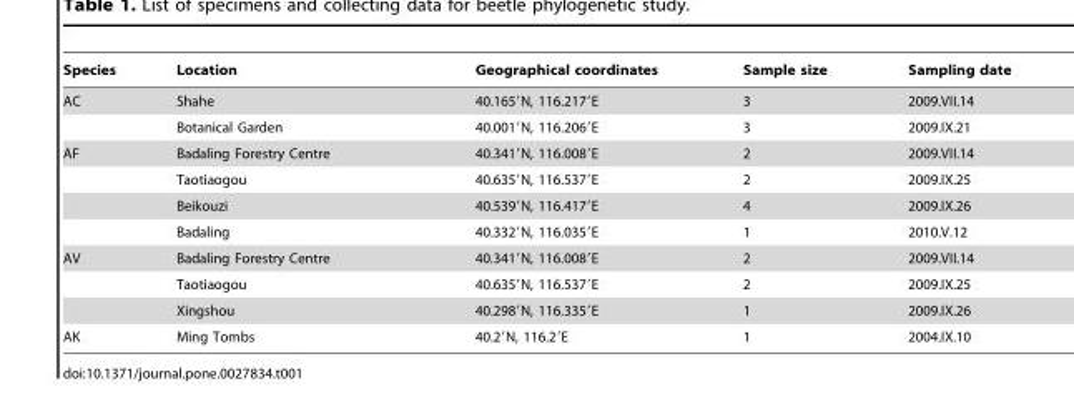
<table><thead><tr><td>Species</td><td>Location</td><td>Geographical coordinates</td><td>Sample size</td><td>Sampling date</td></tr></thead><tbody><tr><td rowspan="2">AC</td><td>Shahe</td><td>40.165′N, 116.217′E</td><td>3</td><td>2009.VII.14</td></tr><tr><td>Botanical Garden</td><td>40.001′N, 116.206′E</td><td>3</td><td>2009.IX.21</td></tr><tr><td rowspan="4">AF</td><td>Badaling Forestry Centre</td><td>40.341′N, 116.008′E</td><td>2</td><td>2009.VII.14</td></tr><tr><td>Taotiaogou</td><td>40.635′N, 116.537′E</td><td>2</td><td>2009.IX.25</td></tr><tr><td>Beikouzi</td><td>40.539′N, 116.417′E</td><td>4</td><td>2009.IX.26</td></tr><tr><td>Badaling</td><td>40.332′N, 116.035′E</td><td>1</td><td>2010.V.12</td></tr><tr><td rowspan="3">AV</td><td>Badaling Forestry Centre</td><td>40.341′N, 116.008′E</td><td>2</td><td>2009.VII.14</td></tr><tr><td>Taotiaogou</td><td>40.635′N, 116.537′E</td><td>2</td><td>2009.IX.25</td></tr><tr><td>Xingshou</td><td>40.298′N, 116.335′E</td><td>1</td><td>2009.IX.26</td></tr><tr><td>AK</td><td>Ming Tombs</td><td>40.2′N, 116.2′E</td><td>1</td><td>2004.IX.10</td></tr></tbody></table>